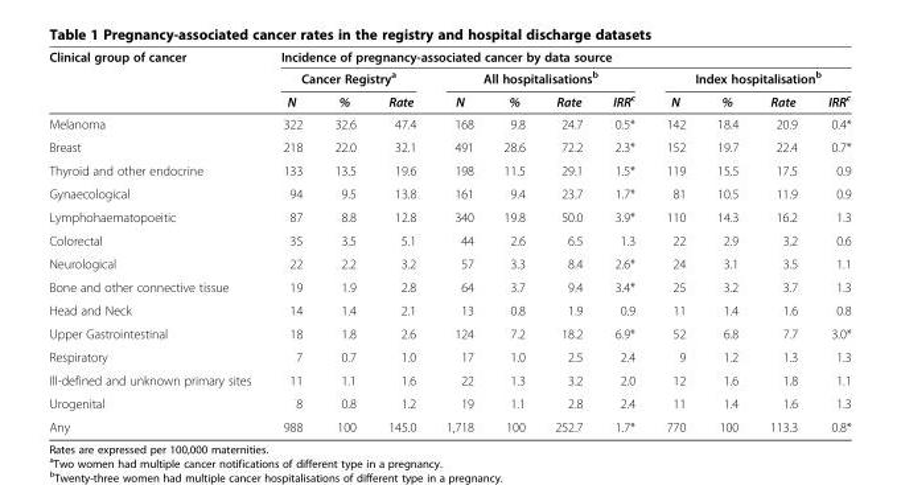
<table><thead><tr><td rowspan="3">Clinical group of cancer</td><td colspan="10">Incidence of pregnancy-associated cancer by data source</td><td></td></tr><tr><td colspan="3">Cancer Registry<sup>a</sup></td><td colspan="4">All hospitalisations<sup>b</sup></td><td colspan="4">Index hospitalisation<sup>b</sup></td></tr><tr><td>N</td><td>%</td><td>Rate</td><td>N</td><td>%</td><td>Rate</td><td>IRR<sup>c</sup></td><td>N</td><td>%</td><td>Rate</td><td>IRR<sup>c</sup></td></tr></thead><tbody><tr><td>Melanoma</td><td>322</td><td>32.6</td><td>47.4</td><td>168</td><td>9.8</td><td>24.7</td><td>0.5*</td><td>142</td><td>18.4</td><td>20.9</td><td>0.4*</td></tr><tr><td>Breast</td><td>218</td><td>22.0</td><td>32.1</td><td>491</td><td>28.6</td><td>72.2</td><td>2.3*</td><td>152</td><td>19.7</td><td>22.4</td><td>0.7*</td></tr><tr><td>Thyroid and other endocrine</td><td>133</td><td>13.5</td><td>19.6</td><td>198</td><td>11.5</td><td>29.1</td><td>1.5*</td><td>119</td><td>15.5</td><td>17.5</td><td>0.9</td></tr><tr><td>Gynaecological</td><td>94</td><td>9.5</td><td>13.8</td><td>161</td><td>9.4</td><td>23.7</td><td>1.7*</td><td>81</td><td>10.5</td><td>11.9</td><td>0.9</td></tr><tr><td>Lymphohaematopoeitic</td><td>87</td><td>8.8</td><td>12.8</td><td>340</td><td>19.8</td><td>50.0</td><td>3.9*</td><td>110</td><td>14.3</td><td>16.2</td><td>1.3</td></tr><tr><td>Colorectal</td><td>35</td><td>3.5</td><td>5.1</td><td>44</td><td>2.6</td><td>6.5</td><td>1.3</td><td>22</td><td>2.9</td><td>3.2</td><td>0.6</td></tr><tr><td>Neurological</td><td>22</td><td>2.2</td><td>3.2</td><td>57</td><td>3.3</td><td>8.4</td><td>2.6*</td><td>24</td><td>3.1</td><td>3.5</td><td>1.1</td></tr><tr><td>Bone and other connective tissue</td><td>19</td><td>1.9</td><td>2.8</td><td>64</td><td>3.7</td><td>9.4</td><td>3.4*</td><td>25</td><td>3.2</td><td>3.7</td><td>1.3</td></tr><tr><td>Head and Neck</td><td>14</td><td>1.4</td><td>2.1</td><td>13</td><td>0.8</td><td>1.9</td><td>0.9</td><td>11</td><td>1.4</td><td>1.6</td><td>0.8</td></tr><tr><td>Upper Gastrointestinal</td><td>18</td><td>1.8</td><td>2.6</td><td>124</td><td>7.2</td><td>18.2</td><td>6.9*</td><td>52</td><td>6.8</td><td>7.7</td><td>3.0*</td></tr><tr><td>Respiratory</td><td>7</td><td>0.7</td><td>1.0</td><td>17</td><td>1.0</td><td>2.5</td><td>2.4</td><td>9</td><td>1.2</td><td>1.3</td><td>1.3</td></tr><tr><td>Ill-defined and unknown primary sites</td><td>11</td><td>1.1</td><td>1.6</td><td>22</td><td>1.3</td><td>3.2</td><td>2.0</td><td>12</td><td>1.6</td><td>1.8</td><td>1.1</td></tr><tr><td>Urogenital</td><td>8</td><td>0.8</td><td>1.2</td><td>19</td><td>1.1</td><td>2.8</td><td>2.4</td><td>11</td><td>1.4</td><td>1.6</td><td>1.3</td></tr><tr><td>Any</td><td>988</td><td>100</td><td>145.0</td><td>1,718</td><td>100</td><td>252.7</td><td>1.7*</td><td>770</td><td>100</td><td>113.3</td><td>0.8*</td></tr></tbody></table>